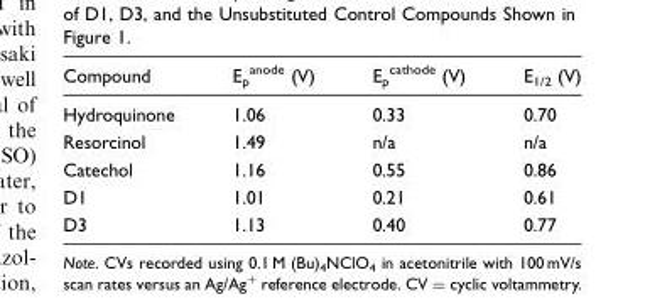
<table><thead><tr><td>Compound</td><td>E<sub>p</sub> <sup>anode</sup> (V)</td><td>E<sub>p</sub> <sup>cathode</sup> (V)</td><td>E<sub>1/2</sub> (V)</td></tr></thead><tbody><tr><td>Hydroquinone</td><td>1.06</td><td>0.33</td><td>0.70</td></tr><tr><td>Resorcinol</td><td>1.49</td><td>n/a</td><td>n/a</td></tr><tr><td>Catechol</td><td>1.16</td><td>0.55</td><td>0.86</td></tr><tr><td>D1</td><td>1.01</td><td>0.21</td><td>0.61</td></tr><tr><td>D3</td><td>1.13</td><td>0.40</td><td>0.77</td></tr></tbody></table>